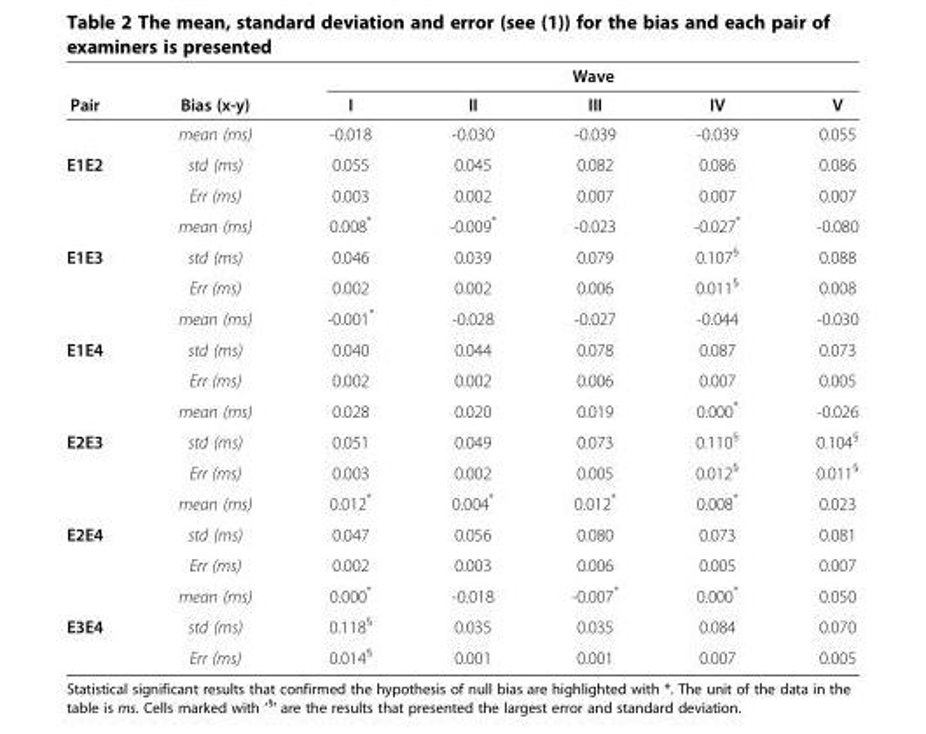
<table><thead><tr><td rowspan="2">Pair</td><td rowspan="2">Bias (x-y)</td><td colspan="5">Wave</td></tr><tr><td>I</td><td>II</td><td>III</td><td>IV</td><td>V</td></tr></thead><tbody><tr><td></td><td>mean (ms)</td><td>-0.018</td><td>-0.030</td><td>-0.039</td><td>-0.039</td><td>0.055</td></tr><tr><td rowspan="3">E1E2</td><td>std (ms)</td><td>0.055</td><td>0.045</td><td>0.082</td><td>0.086</td><td>0.086</td></tr><tr><td>Err (ms)</td><td>0.003</td><td>0.002</td><td>0.007</td><td>0.007</td><td>0.007</td></tr><tr><td>mean (ms)</td><td>0.008*</td><td>-0.009*</td><td>-0.023</td><td>-0.027*</td><td>-0.080</td></tr><tr><td rowspan="3">E1E3</td><td>std (ms)</td><td>0.046</td><td>0.039</td><td>0.079</td><td>0.107<sup>§</sup></td><td>0.088</td></tr><tr><td>Err (ms)</td><td>0.002</td><td>0.002</td><td>0.006</td><td>0.011<sup>§</sup></td><td>0.008</td></tr><tr><td>mean (ms)</td><td>-0.001*</td><td>-0.028</td><td>-0.027</td><td>-0.044</td><td>-0.030</td></tr><tr><td rowspan="3">E1E4</td><td>std (ms)</td><td>0.040</td><td>0.044</td><td>0.078</td><td>0.087</td><td>0.073</td></tr><tr><td>Err (ms)</td><td>0.002</td><td>0.002</td><td>0.006</td><td>0.007</td><td>0.005</td></tr><tr><td>mean (ms)</td><td>0.028</td><td>0.020</td><td>0.019</td><td>0.000*</td><td>-0.026</td></tr><tr><td rowspan="3">E2E3</td><td>std (ms)</td><td>0.051</td><td>0.049</td><td>0.073</td><td>0.110<sup>§</sup></td><td>0.104<sup>§</sup></td></tr><tr><td>Err (ms)</td><td>0.003</td><td>0.002</td><td>0.005</td><td>0.012<sup>§</sup></td><td>0.011<sup>§</sup></td></tr><tr><td>mean (ms)</td><td>0.012*</td><td>0.004*</td><td>0.012*</td><td>0.008*</td><td>0.023</td></tr><tr><td rowspan="3">E2E4</td><td>std (ms)</td><td>0.047</td><td>0.056</td><td>0.080</td><td>0.073</td><td>0.081</td></tr><tr><td>Err (ms)</td><td>0.002</td><td>0.003</td><td>0.006</td><td>0.005</td><td>0.007</td></tr><tr><td>mean (ms)</td><td>0.000*</td><td>-0.018</td><td>-0.007*</td><td>0.000*</td><td>0.050</td></tr><tr><td rowspan="2">E3E4</td><td>std (ms)</td><td>0.118<sup>§</sup></td><td>0.035</td><td>0.035</td><td>0.084</td><td>0.070</td></tr><tr><td>Err (ms)</td><td>0.014<sup>§</sup></td><td>0.001</td><td>0.001</td><td>0.007</td><td>0.005</td></tr></tbody></table>